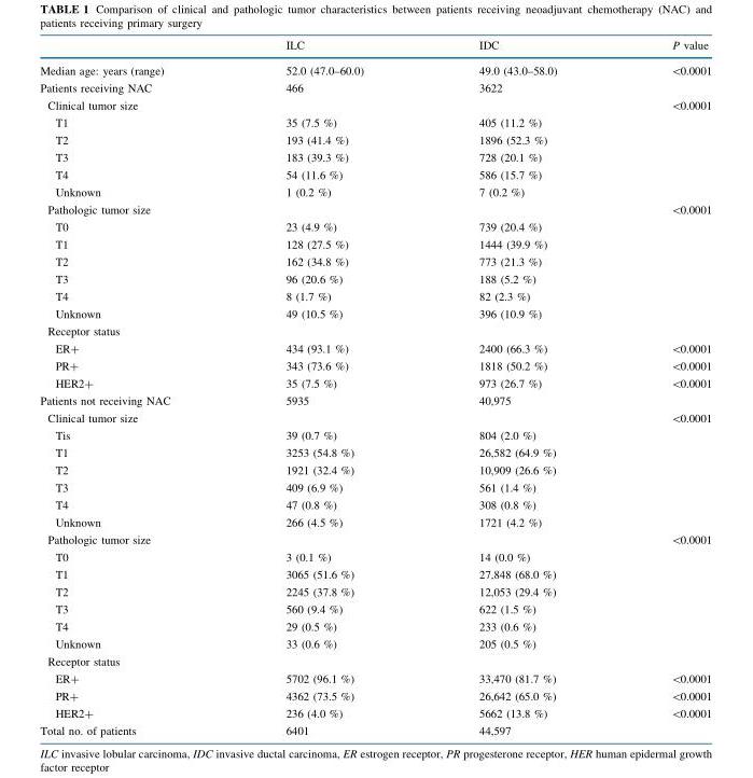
<table><thead><tr><td></td><td>ILC</td><td>IDC</td><td>P value</td></tr></thead><tbody><tr><td>Median age: years (range)</td><td>52.0 (47.0–60.0)</td><td>49.0 (43.0–58.0)</td><td>&lt;0.0001</td></tr><tr><td>Patients receiving NAC</td><td>466</td><td>3622</td><td></td></tr><tr><td colspan="3">Clinical tumor size</td><td rowspan="6">&lt;0.0001</td></tr><tr><td>T1</td><td>35 (7.5 %)</td><td>405 (11.2 %)</td></tr><tr><td>T2</td><td>193 (41.4 %)</td><td>1896 (52.3 %)</td></tr><tr><td>T3</td><td>183 (39.3 %)</td><td>728 (20.1 %)</td></tr><tr><td>T4</td><td>54 (11.6 %)</td><td>586 (15.7 %)</td></tr><tr><td>Unknown</td><td>1 (0.2 %)</td><td>7 (0.2 %)</td></tr><tr><td colspan="3">Pathologic tumor size</td><td rowspan="7">&lt;0.0001</td></tr><tr><td>T0</td><td>23 (4.9 %)</td><td>739 (20.4 %)</td></tr><tr><td>T1</td><td>128 (27.5 %)</td><td>1444 (39.9 %)</td></tr><tr><td>T2</td><td>162 (34.8 %)</td><td>773 (21.3 %)</td></tr><tr><td>T3</td><td>96 (20.6 %)</td><td>188 (5.2 %)</td></tr><tr><td>T4</td><td>8 (1.7 %)</td><td>82 (2.3 %)</td></tr><tr><td>Unknown</td><td>49 (10.5 %)</td><td>396 (10.9 %)</td></tr><tr><td colspan="4">Receptor status</td></tr><tr><td>ER+</td><td>434 (93.1 %)</td><td>2400 (66.3 %)</td><td>&lt;0.0001</td></tr><tr><td>PR+</td><td>343 (73.6 %)</td><td>1818 (50.2 %)</td><td>&lt;0.0001</td></tr><tr><td>HER2+</td><td>35 (7.5 %)</td><td>973 (26.7 %)</td><td>&lt;0.0001</td></tr><tr><td>Patients not receiving NAC</td><td>5935</td><td>40,975</td><td></td></tr><tr><td colspan="3">Clinical tumor size</td><td rowspan="7">&lt;0.0001</td></tr><tr><td>Tis</td><td>39 (0.7 %)</td><td>804 (2.0 %)</td></tr><tr><td>T1</td><td>3253 (54.8 %)</td><td>26,582 (64.9 %)</td></tr><tr><td>T2</td><td>1921 (32.4 %)</td><td>10,909 (26.6 %)</td></tr><tr><td>T3</td><td>409 (6.9 %)</td><td>561 (1.4 %)</td></tr><tr><td>T4</td><td>47 (0.8 %)</td><td>308 (0.8 %)</td></tr><tr><td>Unknown</td><td>266 (4.5 %)</td><td>1721 (4.2 %)</td></tr><tr><td colspan="3">Pathologic tumor size</td><td rowspan="7">&lt;0.0001</td></tr><tr><td>T0</td><td>3 (0.1 %)</td><td>14 (0.0 %)</td></tr><tr><td>T1</td><td>3065 (51.6 %)</td><td>27,848 (68.0 %)</td></tr><tr><td>T2</td><td>2245 (37.8 %)</td><td>12,053 (29.4 %)</td></tr><tr><td>T3</td><td>560 (9.4 %)</td><td>622 (1.5 %)</td></tr><tr><td>T4</td><td>29 (0.5 %)</td><td>233 (0.6 %)</td></tr><tr><td>Unknown</td><td>33 (0.6 %)</td><td>205 (0.5 %)</td></tr><tr><td colspan="4">Receptor status</td></tr><tr><td>ER+</td><td>5702 (96.1 %)</td><td>33,470 (81.7 %)</td><td>&lt;0.0001</td></tr><tr><td>PR+</td><td>4362 (73.5 %)</td><td>26,642 (65.0 %)</td><td>&lt;0.0001</td></tr><tr><td>HER2+</td><td>236 (4.0 %)</td><td>5662 (13.8 %)</td><td>&lt;0.0001</td></tr><tr><td>Total no. of patients</td><td>6401</td><td>44,597</td><td></td></tr></tbody></table>